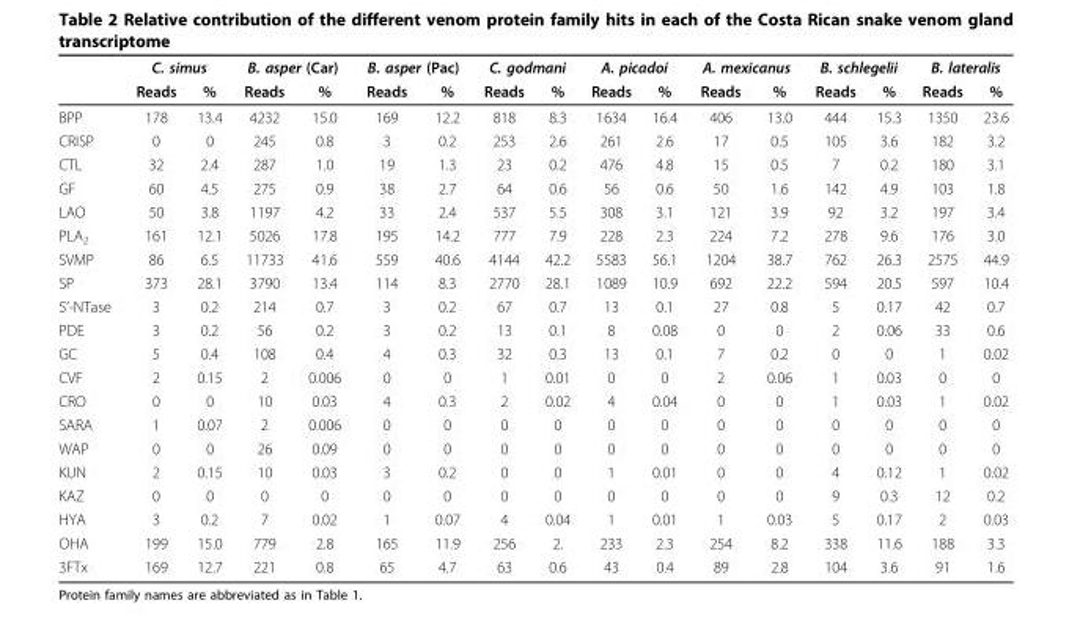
<table><thead><tr><td rowspan="2"></td><td colspan="2">C. simus</td><td colspan="2">B. asper (Car)</td><td colspan="2">B. asper (Pac)</td><td colspan="2">C. godmani</td><td colspan="2">A. picadoi</td><td colspan="2">A. mexicanus</td><td colspan="2">B. schlegelii</td><td colspan="2">B. lateralis</td></tr><tr><td>Reads</td><td>%</td><td>Reads</td><td>%</td><td>Reads</td><td>%</td><td>Reads</td><td>%</td><td>Reads</td><td>%</td><td>Reads</td><td>%</td><td>Reads</td><td>%</td><td>Reads</td><td>%</td></tr></thead><tbody><tr><td>BPP</td><td>178</td><td>13.4</td><td>4232</td><td>15.0</td><td>169</td><td>12.2</td><td>818</td><td>8.3</td><td>1634</td><td>16.4</td><td>406</td><td>13.0</td><td>444</td><td>15.3</td><td>1350</td><td>23.6</td></tr><tr><td>CRISP</td><td>0</td><td>0</td><td>245</td><td>0.8</td><td>3</td><td>0.2</td><td>253</td><td>2.6</td><td>261</td><td>2.6</td><td>17</td><td>0.5</td><td>105</td><td>3.6</td><td>182</td><td>3.2</td></tr><tr><td>CTL</td><td>32</td><td>2.4</td><td>287</td><td>1.0</td><td>19</td><td>1.3</td><td>23</td><td>0.2</td><td>476</td><td>4.8</td><td>15</td><td>0.5</td><td>7</td><td>0.2</td><td>180</td><td>3.1</td></tr><tr><td>GF</td><td>60</td><td>4.5</td><td>275</td><td>0.9</td><td>38</td><td>2.7</td><td>64</td><td>0.6</td><td>56</td><td>0.6</td><td>50</td><td>1.6</td><td>142</td><td>4.9</td><td>103</td><td>1.8</td></tr><tr><td>LAO</td><td>50</td><td>3.8</td><td>1197</td><td>4.2</td><td>33</td><td>2.4</td><td>537</td><td>5.5</td><td>308</td><td>3.1</td><td>121</td><td>3.9</td><td>92</td><td>3.2</td><td>197</td><td>3.4</td></tr><tr><td>PLA<sub>2</sub></td><td>161</td><td>12.1</td><td>5026</td><td>17.8</td><td>195</td><td>14.2</td><td>777</td><td>7.9</td><td>228</td><td>2.3</td><td>224</td><td>7.2</td><td>278</td><td>9.6</td><td>176</td><td>3.0</td></tr><tr><td>SVMP</td><td>86</td><td>6.5</td><td>11733</td><td>41.6</td><td>559</td><td>40.6</td><td>4144</td><td>42.2</td><td>5583</td><td>56.1</td><td>1204</td><td>38.7</td><td>762</td><td>26.3</td><td>2575</td><td>44.9</td></tr><tr><td>SP</td><td>373</td><td>28.1</td><td>3790</td><td>13.4</td><td>114</td><td>8.3</td><td>2770</td><td>28.1</td><td>1089</td><td>10.9</td><td>692</td><td>22.2</td><td>594</td><td>20.5</td><td>597</td><td>10.4</td></tr><tr><td>5’-NTase</td><td>3</td><td>0.2</td><td>214</td><td>0.7</td><td>3</td><td>0.2</td><td>67</td><td>0.7</td><td>13</td><td>0.1</td><td>27</td><td>0.8</td><td>5</td><td>0.17</td><td>42</td><td>0.7</td></tr><tr><td>PDE</td><td>3</td><td>0.2</td><td>56</td><td>0.2</td><td>3</td><td>0.2</td><td>13</td><td>0.1</td><td>8</td><td>0.08</td><td>0</td><td>0</td><td>2</td><td>0.06</td><td>33</td><td>0.6</td></tr><tr><td>GC</td><td>5</td><td>0.4</td><td>108</td><td>0.4</td><td>4</td><td>0.3</td><td>32</td><td>0.3</td><td>13</td><td>0.1</td><td>7</td><td>0.2</td><td>0</td><td>0</td><td>1</td><td>0.02</td></tr><tr><td>CVF</td><td>2</td><td>0.15</td><td>2</td><td>0.006</td><td>0</td><td>0</td><td>1</td><td>0.01</td><td>0</td><td>0</td><td>2</td><td>0.06</td><td>1</td><td>0.03</td><td>0</td><td>0</td></tr><tr><td>CRO</td><td>0</td><td>0</td><td>10</td><td>0.03</td><td>4</td><td>0.3</td><td>2</td><td>0.02</td><td>4</td><td>0.04</td><td>0</td><td>0</td><td>1</td><td>0.03</td><td>1</td><td>0.02</td></tr><tr><td>SARA</td><td>1</td><td>0.07</td><td>2</td><td>0.006</td><td>0</td><td>0</td><td>0</td><td>0</td><td>0</td><td>0</td><td>0</td><td>0</td><td>0</td><td>0</td><td>0</td><td>0</td></tr><tr><td>WAP</td><td>0</td><td>0</td><td>26</td><td>0.09</td><td>0</td><td>0</td><td>0</td><td>0</td><td>0</td><td>0</td><td>0</td><td>0</td><td>0</td><td>0</td><td>0</td><td>0</td></tr><tr><td>KUN</td><td>2</td><td>0.15</td><td>10</td><td>0.03</td><td>3</td><td>0.2</td><td>0</td><td>0</td><td>1</td><td>0.01</td><td>0</td><td>0</td><td>4</td><td>0.12</td><td>1</td><td>0.02</td></tr><tr><td>KAZ</td><td>0</td><td>0</td><td>0</td><td>0</td><td>0</td><td>0</td><td>0</td><td>0</td><td>0</td><td>0</td><td>0</td><td>0</td><td>9</td><td>0.3</td><td>12</td><td>0.2</td></tr><tr><td>HYA</td><td>3</td><td>0.2</td><td>7</td><td>0.02</td><td>1</td><td>0.07</td><td>4</td><td>0.04</td><td>1</td><td>0.01</td><td>1</td><td>0.03</td><td>5</td><td>0.17</td><td>2</td><td>0.03</td></tr><tr><td>OHA</td><td>199</td><td>15.0</td><td>779</td><td>2.8</td><td>165</td><td>11.9</td><td>256</td><td>2.</td><td>233</td><td>2.3</td><td>254</td><td>8.2</td><td>338</td><td>11.6</td><td>188</td><td>3.3</td></tr><tr><td>3FTx</td><td>169</td><td>12.7</td><td>221</td><td>0.8</td><td>65</td><td>4.7</td><td>63</td><td>0.6</td><td>43</td><td>0.4</td><td>89</td><td>2.8</td><td>104</td><td>3.6</td><td>91</td><td>1.6</td></tr></tbody></table>